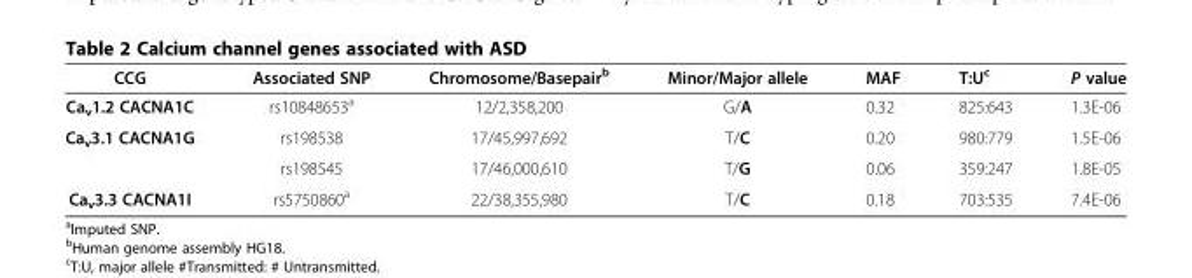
<table><thead><tr><td>CCG</td><td>Associated SNP</td><td>Chromosome/Basepair<sup>b</sup></td><td>Minor/Major allele</td><td>MAF</td><td>T:U<sup>c</sup></td><td>P value</td></tr></thead><tbody><tr><td>Ca<sub>v</sub>1.2 CACNA1C</td><td>rs10848653<sup>a</sup></td><td>12/2,358,200</td><td>G/A</td><td>0.32</td><td>825:643</td><td>1.3E-06</td></tr><tr><td rowspan="2">Ca<sub>v</sub>3.1 CACNA1G</td><td>rs198538</td><td>17/45,997,692</td><td>T/C</td><td>0.20</td><td>980:779</td><td>1.5E-06</td></tr><tr><td>rs198545</td><td>17/46,000,610</td><td>T/G</td><td>0.06</td><td>359:247</td><td>1.8E-05</td></tr><tr><td>Ca<sub>v</sub>3.3 CACNA1I</td><td>rs5750860<sup>a</sup></td><td>22/38,355,980</td><td>T/C</td><td>0.18</td><td>703:535</td><td>7.4E-06</td></tr></tbody></table>